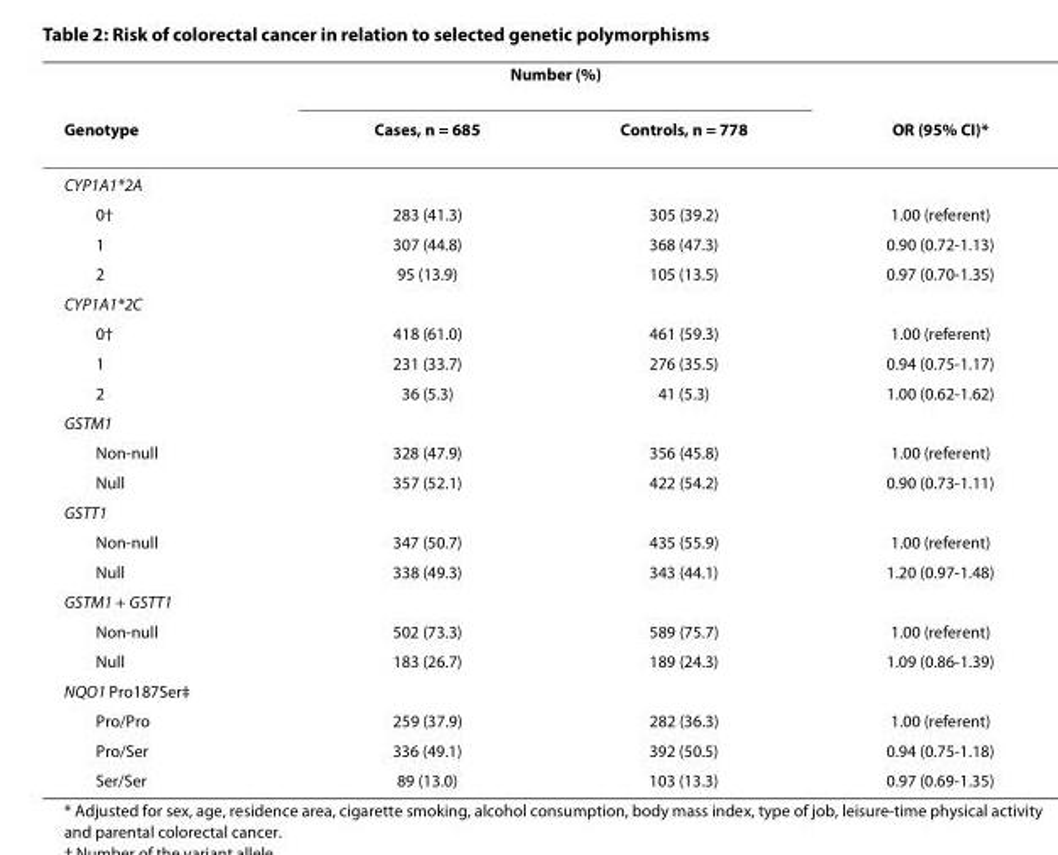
<table><thead><tr><td rowspan="2">Genotype</td><td colspan="2">Number (%)</td><td rowspan="2">OR (95% CI)*</td></tr><tr><td>Cases, n = 685</td><td>Controls, n = 778</td></tr></thead><tbody><tr><td colspan="4">CYP1A1*2A</td></tr><tr><td>0†</td><td>283 (41.3)</td><td>305 (39.2)</td><td>1.00 (referent)</td></tr><tr><td>1</td><td>307 (44.8)</td><td>368 (47.3)</td><td>0.90 (0.72-1.13)</td></tr><tr><td>2</td><td>95 (13.9)</td><td>105 (13.5)</td><td>0.97 (0.70-1.35)</td></tr><tr><td colspan="4">CYP1A1*2C</td></tr><tr><td>0†</td><td>418 (61.0)</td><td>461 (59.3)</td><td>1.00 (referent)</td></tr><tr><td>1</td><td>231 (33.7)</td><td>276 (35.5)</td><td>0.94 (0.75-1.17)</td></tr><tr><td>2</td><td>36 (5.3)</td><td>41 (5.3)</td><td>1.00 (0.62-1.62)</td></tr><tr><td colspan="4">GSTM1</td></tr><tr><td>Non-null</td><td>328 (47.9)</td><td>356 (45.8)</td><td>1.00 (referent)</td></tr><tr><td>Null</td><td>357 (52.1)</td><td>422 (54.2)</td><td>0.90 (0.73-1.11)</td></tr><tr><td colspan="4">GSTT1</td></tr><tr><td>Non-null</td><td>347 (50.7)</td><td>435 (55.9)</td><td>1.00 (referent)</td></tr><tr><td>Null</td><td>338 (49.3)</td><td>343 (44.1)</td><td>1.20 (0.97-1.48)</td></tr><tr><td colspan="4">GSTM1 + GSTT1</td></tr><tr><td>Non-null</td><td>502 (73.3)</td><td>589 (75.7)</td><td>1.00 (referent)</td></tr><tr><td>Null</td><td>183 (26.7)</td><td>189 (24.3)</td><td>1.09 (0.86-1.39)</td></tr><tr><td colspan="4">NQO1 Pro187Ser‡</td></tr><tr><td>Pro/Pro</td><td>259 (37.9)</td><td>282 (36.3)</td><td>1.00 (referent)</td></tr><tr><td>Pro/Ser</td><td>336 (49.1)</td><td>392 (50.5)</td><td>0.94 (0.75-1.18)</td></tr><tr><td>Ser/Ser</td><td>89 (13.0)</td><td>103 (13.3)</td><td>0.97 (0.69-1.35)</td></tr></tbody></table>